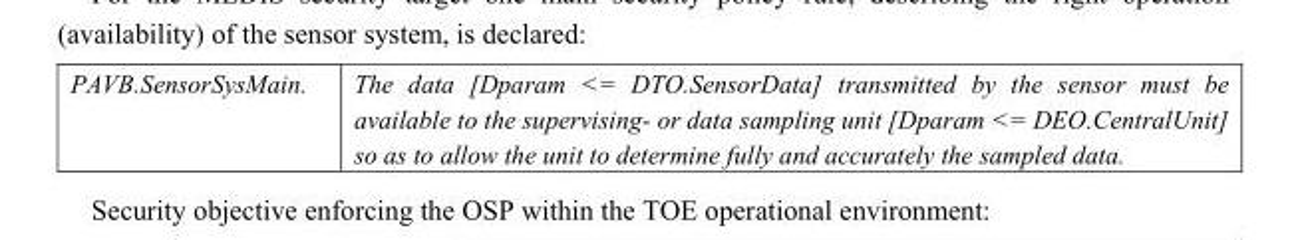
<table><tbody><tr><td>PAVB.SensorSysMain.</td><td>The data [Dparam &lt;= DTO.SensorData] transmitted by the sensor must be available to the supervising- or data sampling unit [Dparam &lt;= DEO.CentralUnit] so as to allow the unit to determine fully and accurately the sampled data.</td></tr></tbody></table>